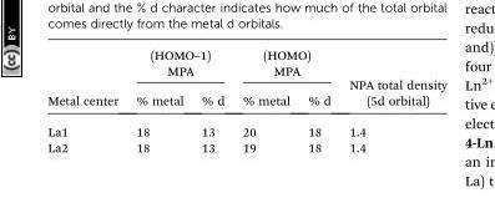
<table><thead><tr><td rowspan="2">Metal center</td><td colspan="2">(HOMO–1) MPA</td><td colspan="2">(HOMO) MPA</td><td rowspan="2">NPA total density (5d orbital)</td></tr><tr><td>% metal</td><td>% d</td><td>% metal</td><td>% d</td></tr></thead><tbody><tr><td>La1</td><td>18</td><td>13</td><td>20</td><td>18</td><td>1.4</td></tr><tr><td>La2</td><td>18</td><td>13</td><td>19</td><td>18</td><td>1.4</td></tr></tbody></table>